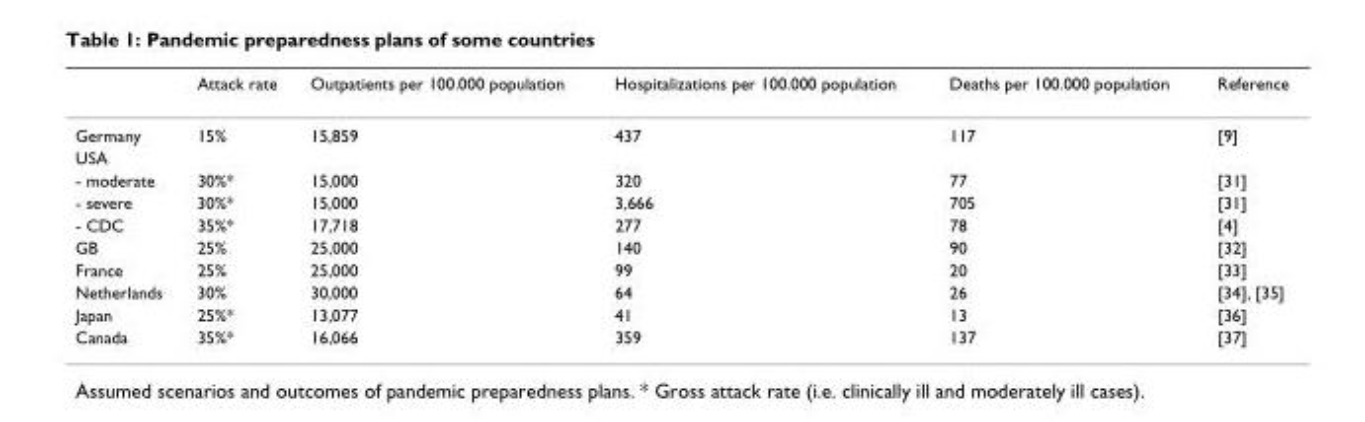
<table><thead><tr><td></td><td>Attack rate</td><td>Outpatients per 100.000 population</td><td>Hospitalizations per 100.000 population</td><td>Deaths per 100.000 population</td><td>Reference</td></tr></thead><tbody><tr><td>Germany</td><td>15%</td><td>15,859</td><td>437</td><td>117</td><td>[9]</td></tr><tr><td colspan="6">USA</td></tr><tr><td>- moderate</td><td>30%*</td><td>15,000</td><td>320</td><td>77</td><td>[31]</td></tr><tr><td>- severe</td><td>30%*</td><td>15,000</td><td>3,666</td><td>705</td><td>[31]</td></tr><tr><td>- CDC</td><td>35%*</td><td>17,718</td><td>277</td><td>78</td><td>[4]</td></tr><tr><td>GB</td><td>25%</td><td>25,000</td><td>140</td><td>90</td><td>[32]</td></tr><tr><td>France</td><td>25%</td><td>25,000</td><td>99</td><td>20</td><td>[33]</td></tr><tr><td>Netherlands</td><td>30%</td><td>30,000</td><td>64</td><td>26</td><td>[34], [35]</td></tr><tr><td>Japan</td><td>25%*</td><td>13,077</td><td>41</td><td>13</td><td>[36]</td></tr><tr><td>Canada</td><td>35%*</td><td>16,066</td><td>359</td><td>137</td><td>[37]</td></tr></tbody></table>